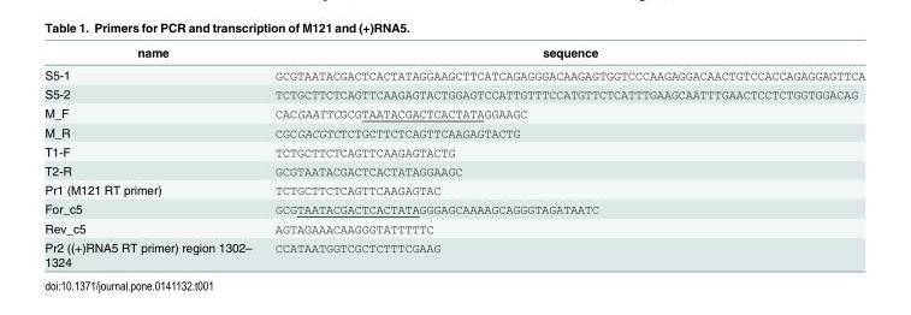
<table><thead><tr><td>name</td><td>sequence</td></tr></thead><tbody><tr><td>S5-1</td><td>GCGTAATACGACTCACTATAGGAAGCTTCATCAGAGGGACAAGAGTGGTCCCAAGAGGACAACTGTCCACCAGAGGAGTTCA</td></tr><tr><td>S5-2</td><td>TCTGCTTCTCAGTTCAAGAGTACTGGAGTCCATTGTTTCCATGTTCTCATTTGAAGCAATTTGAACTCCTCTGGTGGACAG</td></tr><tr><td>M_F</td><td>CACGAATTCGCGTAATACGACTCACTATAGGAAGC</td></tr><tr><td>M_R</td><td>CGCGACGTCTCTGCTTCTCAGTTCAAGAGTACTG</td></tr><tr><td>T1-F</td><td>TCTGCTTCTCAGTTCAAGAGTACTG</td></tr><tr><td>T2-R</td><td>GCGTAATACGACTCACTATAGGAAGC</td></tr><tr><td>Pr1 (M121 RT primer)</td><td>TCTGCTTCTCAGTTCAAGAGTAC</td></tr><tr><td>For_c5</td><td>GCGTAATACGACTCACTATAGGGAGCAAAAGCAGGGTAGATAATC</td></tr><tr><td>Rev_c5</td><td>AGTAGAAACAAGGGTATTTTTC</td></tr><tr><td>Pr2 ((+)RNA5 RT primer) region 1302– 1324</td><td>CCATAATGGTCGCTCTTTCGAAG</td></tr></tbody></table>